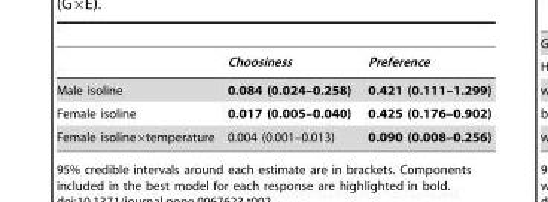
<table><thead><tr><td></td><td>Choosiness</td><td>Preference</td></tr></thead><tbody><tr><td>Male isoline</td><td>0.084 (0.024–0.258)</td><td>0.421 (0.111–1.299)</td></tr><tr><td>Female isoline</td><td>0.017 (0.005–0.040)</td><td>0.425 (0.176–0.902)</td></tr><tr><td>Female isoline×temperature</td><td>0.004 (0.001–0.013)</td><td>0.090 (0.008–0.256)</td></tr></tbody></table>